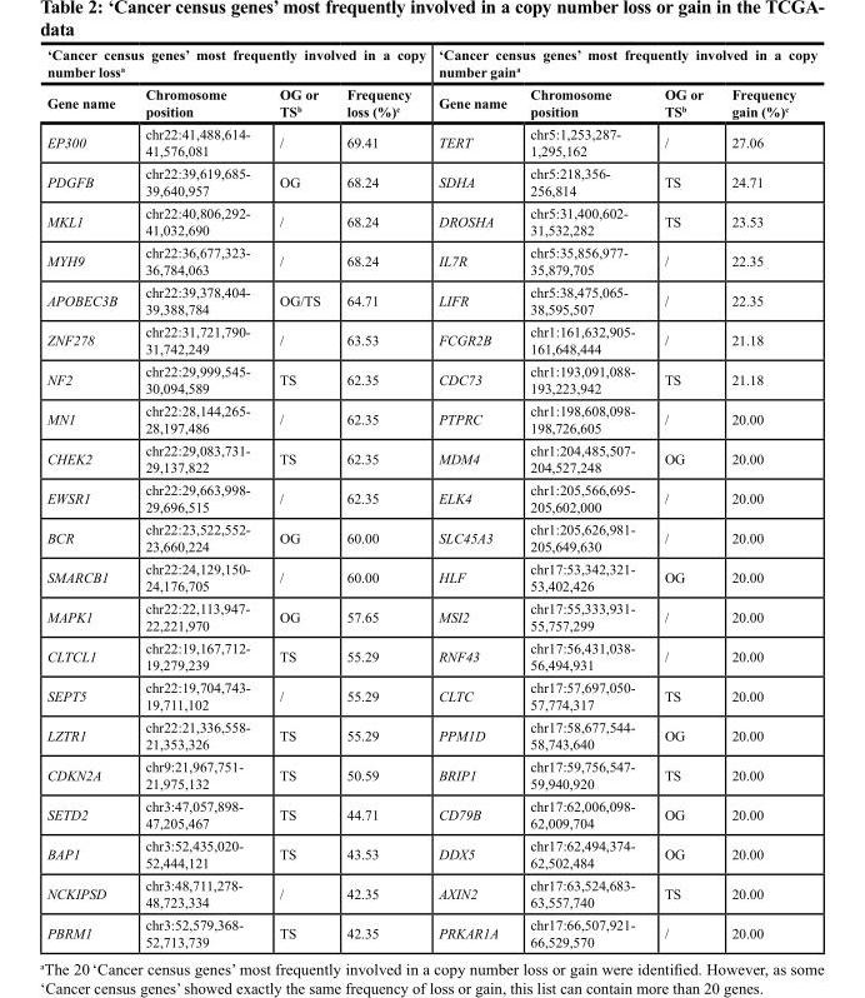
<table><thead><tr><td colspan="4">‘Cancer census genes’ most frequently involved in a copy number loss<sup>a</sup></td><td colspan="4">‘Cancer census genes’ most frequently involved in a copy number gain<sup>a</sup></td></tr><tr><td>Gene name</td><td>Chromosome position</td><td>OG or TS<sup>b</sup></td><td>Frequency loss (%)<sup>c</sup></td><td>Gene name</td><td>Chromosome position</td><td>OG or TS<sup>b</sup></td><td>Frequency gain (%)<sup>c</sup></td></tr></thead><tbody><tr><td>EP300</td><td>chr22:41,488,614- 41,576,081</td><td>/</td><td>69.41</td><td>TERT</td><td>chr5:1,253,287- 1,295,162</td><td>/</td><td>27.06</td></tr><tr><td>PDGFB</td><td>chr22:39,619,685- 39,640,957</td><td>OG</td><td>68.24</td><td>SDHA</td><td>chr5:218,356- 256,814</td><td>TS</td><td>24.71</td></tr><tr><td>MKL1</td><td>chr22:40,806,292- 41,032,690</td><td>/</td><td>68.24</td><td>DROSHA</td><td>chr5:31,400,602- 31,532,282</td><td>TS</td><td>23.53</td></tr><tr><td>MYH9</td><td>chr22:36,677,323- 36,784,063</td><td>/</td><td>68.24</td><td>IL7R</td><td>chr5:35,856,977- 35,879,705</td><td>/</td><td>22.35</td></tr><tr><td>APOBEC3B</td><td>chr22:39,378,404- 39,388,784</td><td>OG/TS</td><td>64.71</td><td>LIFR</td><td>chr5:38,475,065- 38,595,507</td><td>/</td><td>22.35</td></tr><tr><td>ZNF278</td><td>chr22:31,721,790- 31,742,249</td><td>/</td><td>63.53</td><td>FCGR2B</td><td>chr1:161,632,905- 161,648,444</td><td>/</td><td>21.18</td></tr><tr><td>NF2</td><td>chr22:29,999,545- 30,094,589</td><td>TS</td><td>62.35</td><td>CDC73</td><td>chr1:193,091,088- 193,223,942</td><td>TS</td><td>21.18</td></tr><tr><td>MN1</td><td>chr22:28,144,265- 28,197,486</td><td>/</td><td>62.35</td><td>PTPRC</td><td>chr1:198,608,098- 198,726,605</td><td>/</td><td>20.00</td></tr><tr><td>CHEK2</td><td>chr22:29,083,731- 29,137,822</td><td>TS</td><td>62.35</td><td>MDM4</td><td>chr1:204,485,507- 204,527,248</td><td>OG</td><td>20.00</td></tr><tr><td>EWSR1</td><td>chr22:29,663,998- 29,696,515</td><td>/</td><td>62.35</td><td>ELK4</td><td>chr1:205,566,695- 205,602,000</td><td>/</td><td>20.00</td></tr><tr><td>BCR</td><td>chr22:23,522,552- 23,660,224</td><td>OG</td><td>60.00</td><td>SLC45A3</td><td>chr1:205,626,981- 205,649,630</td><td>/</td><td>20.00</td></tr><tr><td>SMARCB1</td><td>chr22:24,129,150- 24,176,705</td><td>/</td><td>60.00</td><td>HLF</td><td>chr17:53,342,321- 53,402,426</td><td>OG</td><td>20.00</td></tr><tr><td>MAPK1</td><td>chr22:22,113,947- 22,221,970</td><td>OG</td><td>57.65</td><td>MSI2</td><td>chr17:55,333,931- 55,757,299</td><td>/</td><td>20.00</td></tr><tr><td>CLTCL1</td><td>chr22:19,167,712- 19,279,239</td><td>TS</td><td>55.29</td><td>RNF43</td><td>chr17:56,431,038- 56,494,931</td><td>/</td><td>20.00</td></tr><tr><td>SEPT5</td><td>chr22:19,704,743- 19,711,102</td><td>/</td><td>55.29</td><td>CLTC</td><td>chr17:57,697,050- 57,774,317</td><td>TS</td><td>20.00</td></tr><tr><td>LZTR1</td><td>chr22:21,336,558- 21,353,326</td><td>TS</td><td>55.29</td><td>PPM1D</td><td>chr17:58,677,544- 58,743,640</td><td>OG</td><td>20.00</td></tr><tr><td>CDKN2A</td><td>chr9:21,967,751- 21,975,132</td><td>TS</td><td>50.59</td><td>BRIP1</td><td>chr17:59,756,547- 59,940,920</td><td>TS</td><td>20.00</td></tr><tr><td>SETD2</td><td>chr3:47,057,898- 47,205,467</td><td>TS</td><td>44.71</td><td>CD79B</td><td>chr17:62,006,098- 62,009,704</td><td>OG</td><td>20.00</td></tr><tr><td>BAP1</td><td>chr3:52,435,020- 52,444,121</td><td>TS</td><td>43.53</td><td>DDX5</td><td>chr17:62,494,374- 62,502,484</td><td>OG</td><td>20.00</td></tr><tr><td>NCKIPSD</td><td>chr3:48,711,278- 48,723,334</td><td>/</td><td>42.35</td><td>AXIN2</td><td>chr17:63,524,683- 63,557,740</td><td>TS</td><td>20.00</td></tr><tr><td>PBRM1</td><td>chr3:52,579,368- 52,713,739</td><td>TS</td><td>42.35</td><td>PRKAR1A</td><td>chr17:66,507,921- 66,529,570</td><td>/</td><td>20.00</td></tr></tbody></table>